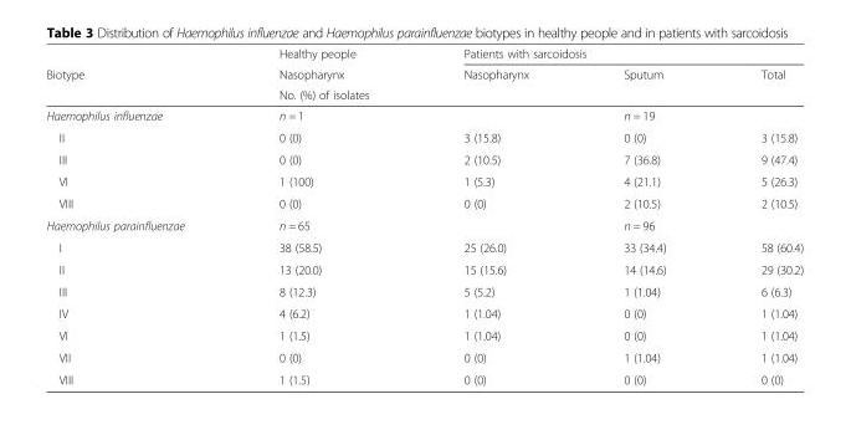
<table><thead><tr><td rowspan="3">Biotype</td><td rowspan="3">Healthy people Nasopharynx No. (%) of isolates</td><td colspan="3">Patients with sarcoidosis</td></tr><tr><td rowspan="2">Nasopharynx</td><td rowspan="2">Sputum</td><td rowspan="2">Total</td></tr><tr></tr></thead><tbody><tr><td>Haemophilus influenzae</td><td>n = 1</td><td></td><td>n = 19</td><td></td></tr><tr><td>II</td><td>0 (0)</td><td>3 (15.8)</td><td>0 (0)</td><td>3 (15.8)</td></tr><tr><td>III</td><td>0 (0)</td><td>2 (10.5)</td><td>7 (36.8)</td><td>9 (47.4)</td></tr><tr><td>VI</td><td>1 (100)</td><td>1 (5.3)</td><td>4 (21.1)</td><td>5 (26.3)</td></tr><tr><td>VIII</td><td>0 (0)</td><td>0 (0)</td><td>2 (10.5)</td><td>2 (10.5)</td></tr><tr><td>Haemophilus parainfluenzae</td><td>n = 65</td><td></td><td>n = 96</td><td></td></tr><tr><td>I</td><td>38 (58.5)</td><td>25 (26.0)</td><td>33 (34.4)</td><td>58 (60.4)</td></tr><tr><td>II</td><td>13 (20.0)</td><td>15 (15.6)</td><td>14 (14.6)</td><td>29 (30.2)</td></tr><tr><td>III</td><td>8 (12.3)</td><td>5 (5.2)</td><td>1 (1.04)</td><td>6 (6.3)</td></tr><tr><td>IV</td><td>4 (6.2)</td><td>1 (1.04)</td><td>0 (0)</td><td>1 (1.04)</td></tr><tr><td>VI</td><td>1 (1.5)</td><td>1 (1.04)</td><td>0 (0)</td><td>1 (1.04)</td></tr><tr><td>VII</td><td>0 (0)</td><td>0 (0)</td><td>1 (1.04)</td><td>1 (1.04)</td></tr><tr><td>VIII</td><td>1 (1.5)</td><td>0 (0)</td><td>0 (0)</td><td>0 (0)</td></tr></tbody></table>